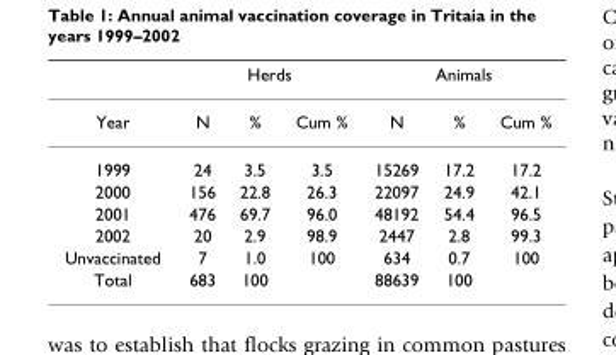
<table><thead><tr><td rowspan="2">Year</td><td colspan="3">Herds</td><td colspan="3">Animals</td></tr><tr><td>N</td><td>%</td><td>Cum %</td><td>N</td><td>%</td><td>Cum %</td></tr></thead><tbody><tr><td>1999</td><td>24</td><td>3.5</td><td>3.5</td><td>15269</td><td>17.2</td><td>17.2</td></tr><tr><td>2000</td><td>156</td><td>22.8</td><td>26.3</td><td>22097</td><td>24.9</td><td>42.1</td></tr><tr><td>2001</td><td>476</td><td>69.7</td><td>96.0</td><td>48192</td><td>54.4</td><td>96.5</td></tr><tr><td>2002</td><td>20</td><td>2.9</td><td>98.9</td><td>2447</td><td>2.8</td><td>99.3</td></tr><tr><td>Unvaccinated</td><td>7</td><td>1.0</td><td>100</td><td>634</td><td>0.7</td><td>100</td></tr><tr><td>Total</td><td>683</td><td>100</td><td></td><td>88639</td><td>100</td><td></td></tr></tbody></table>